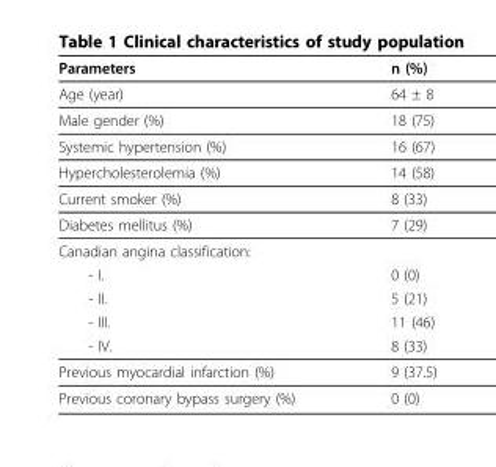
<table><thead><tr><td>Parameters</td><td>n (%)</td></tr></thead><tbody><tr><td>Age (year)</td><td>64 ± 8</td></tr><tr><td>Male gender (%)</td><td>18 (75)</td></tr><tr><td>Systemic hypertension (%)</td><td>16 (67)</td></tr><tr><td>Hypercholesterolemia (%)</td><td>14 (58)</td></tr><tr><td>Current smoker (%)</td><td>8 (33)</td></tr><tr><td>Diabetes mellitus (%)</td><td>7 (29)</td></tr><tr><td colspan="2">Canadian angina classification:</td></tr><tr><td>- I.</td><td>0 (0)</td></tr><tr><td>- II.</td><td>5 (21)</td></tr><tr><td>- III.</td><td>11 (46)</td></tr><tr><td>- IV.</td><td>8 (33)</td></tr><tr><td>Previous myocardial infarction (%)</td><td>9 (37.5)</td></tr><tr><td>Previous coronary bypass surgery (%)</td><td>0 (0)</td></tr></tbody></table>